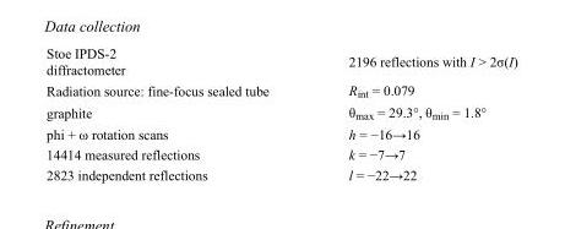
<table><tbody><tr><td>Stoe IPDS-2 diffractometer</td><td>2196 reflections with I &gt; 2σ(I)</td></tr><tr><td>Radiation source: fine-focus sealed tube</td><td>R<sub>int</sub> = 0.079</td></tr><tr><td>graphite</td><td>θ<sub>max</sub> = 29.3°, θ<sub>min</sub> = 1.8°</td></tr><tr><td>phi + ω rotation scans</td><td>h = −16→16</td></tr><tr><td>14414 measured reflections</td><td>k = −7→7</td></tr><tr><td>2823 independent reflections</td><td>l = −22→22</td></tr></tbody></table>